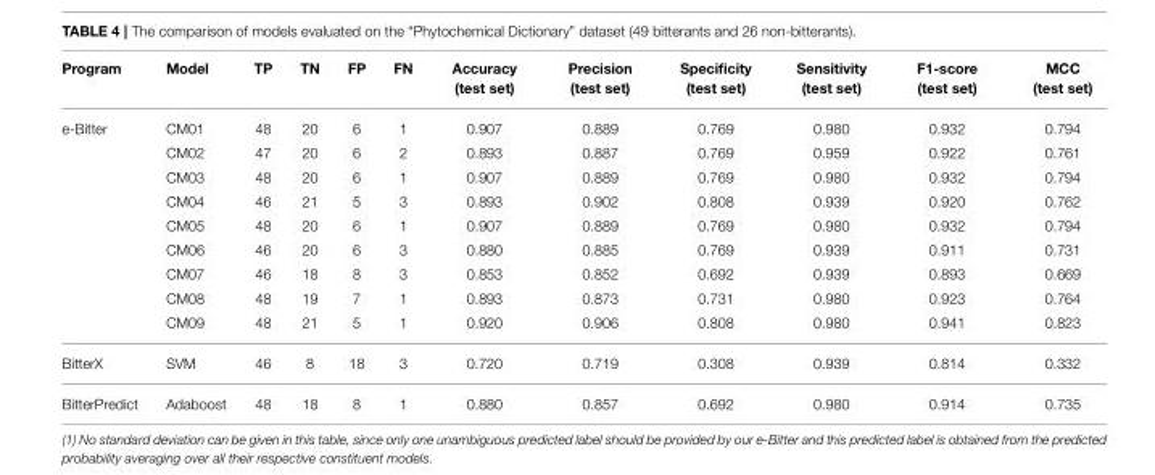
<table><thead><tr><td>Program</td><td>Model</td><td>TP</td><td>TN</td><td>FP</td><td>FN</td><td>Accuracy (test set)</td><td>Precision (test set)</td><td>Specificity (test set)</td><td>Sensitivity (test set)</td><td>F1-score (test set)</td><td>MCC (test set)</td></tr></thead><tbody><tr><td rowspan="9">e-Bitter</td><td>CM01</td><td>48</td><td>20</td><td>6</td><td>1</td><td>0.907</td><td>0.889</td><td>0.769</td><td>0.980</td><td>0.932</td><td>0.794</td></tr><tr><td>CM02</td><td>47</td><td>20</td><td>6</td><td>2</td><td>0.893</td><td>0.887</td><td>0.769</td><td>0.959</td><td>0.922</td><td>0.761</td></tr><tr><td>CM03</td><td>48</td><td>20</td><td>6</td><td>1</td><td>0.907</td><td>0.889</td><td>0.769</td><td>0.980</td><td>0.932</td><td>0.794</td></tr><tr><td>CM04</td><td>46</td><td>21</td><td>5</td><td>3</td><td>0.893</td><td>0.902</td><td>0.808</td><td>0.939</td><td>0.920</td><td>0.762</td></tr><tr><td>CM05</td><td>48</td><td>20</td><td>6</td><td>1</td><td>0.907</td><td>0.889</td><td>0.769</td><td>0.980</td><td>0.932</td><td>0.794</td></tr><tr><td>CM06</td><td>46</td><td>20</td><td>6</td><td>3</td><td>0.880</td><td>0.885</td><td>0.769</td><td>0.939</td><td>0.911</td><td>0.731</td></tr><tr><td>CM07</td><td>46</td><td>18</td><td>8</td><td>3</td><td>0.853</td><td>0.852</td><td>0.692</td><td>0.939</td><td>0.893</td><td>0.669</td></tr><tr><td>CM08</td><td>48</td><td>19</td><td>7</td><td>1</td><td>0.893</td><td>0.873</td><td>0.731</td><td>0.980</td><td>0.923</td><td>0.764</td></tr><tr><td>CM09</td><td>48</td><td>21</td><td>5</td><td>1</td><td>0.920</td><td>0.906</td><td>0.808</td><td>0.980</td><td>0.941</td><td>0.823</td></tr><tr><td>BitterX</td><td>SVM</td><td>46</td><td>8</td><td>18</td><td>3</td><td>0.720</td><td>0.719</td><td>0.308</td><td>0.939</td><td>0.814</td><td>0.332</td></tr><tr><td>BitterPredict</td><td>Adaboost</td><td>48</td><td>18</td><td>8</td><td>1</td><td>0.880</td><td>0.857</td><td>0.692</td><td>0.980</td><td>0.914</td><td>0.735</td></tr></tbody></table>